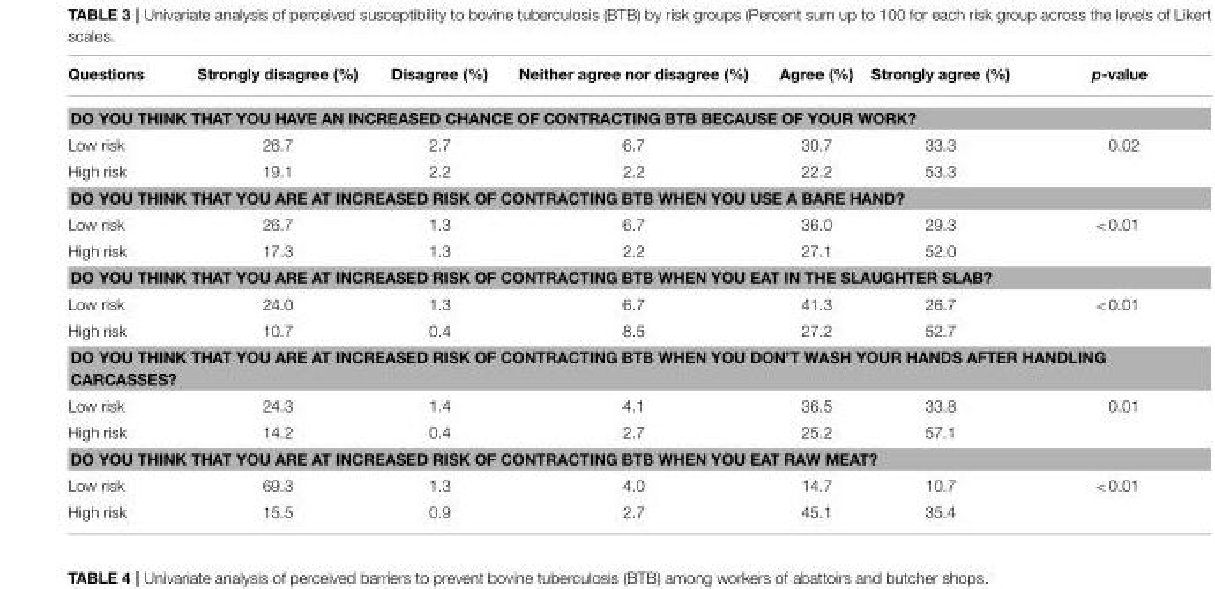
<table><thead><tr><td>Questions</td><td>Strongly disagree (%)</td><td>Disagree (%)</td><td>Neither agree nor disagree (%)</td><td>Agree (%)</td><td>Strongly agree (%)</td><td>p-value</td></tr></thead><tbody><tr><td colspan="7">DO YOU THINK THAT YOU HAVE AN INCREASED CHANCE OF CONTRACTING BTB BECAUSE OF YOUR WORK?</td></tr><tr><td>Low risk</td><td>26.7</td><td>2.7</td><td>6.7</td><td>30.7</td><td>33.3</td><td>0.02</td></tr><tr><td>High risk</td><td>19.1</td><td>2.2</td><td>2.2</td><td>22.2</td><td>53.3</td><td></td></tr><tr><td colspan="7">DO YOU THINK THAT YOU ARE AT INCREASED RISK OF CONTRACTING BTB WHEN YOU USE A BARE HAND?</td></tr><tr><td>Low risk</td><td>26.7</td><td>1.3</td><td>6.7</td><td>36.0</td><td>29.3</td><td>&lt;0.01</td></tr><tr><td>High risk</td><td>17.3</td><td>1.3</td><td>2.2</td><td>27.1</td><td>52.0</td><td></td></tr><tr><td colspan="7">DO YOU THINK THAT YOU ARE AT INCREASED RISK OF CONTRACTING BTB WHEN YOU EAT IN THE SLAUGHTER SLAB?</td></tr><tr><td>Low risk</td><td>24.0</td><td>1.3</td><td>6.7</td><td>41.3</td><td>26.7</td><td>&lt;0.01</td></tr><tr><td>High risk</td><td>10.7</td><td>0.4</td><td>8.5</td><td>27.2</td><td>52.7</td><td></td></tr><tr><td colspan="7">DO YOU THINK THAT YOU ARE AT INCREASED RISK OF CONTRACTING BTB WHEN YOU DON’T WASH YOUR HANDS AFTER HANDLING CARCASSES?</td></tr><tr><td>Low risk</td><td>24.3</td><td>1.4</td><td>4.1</td><td>36.5</td><td>33.8</td><td>0.01</td></tr><tr><td>High risk</td><td>14.2</td><td>0.4</td><td>2.7</td><td>25.2</td><td>57.1</td><td></td></tr><tr><td colspan="7">DO YOU THINK THAT YOU ARE AT INCREASED RISK OF CONTRACTING BTB WHEN YOU EAT RAW MEAT?</td></tr><tr><td>Low risk</td><td>69.3</td><td>1.3</td><td>4.0</td><td>14.7</td><td>10.7</td><td>&lt;0.01</td></tr><tr><td>High risk</td><td>15.5</td><td>0.9</td><td>2.7</td><td>45.1</td><td>35.4</td><td></td></tr></tbody></table>